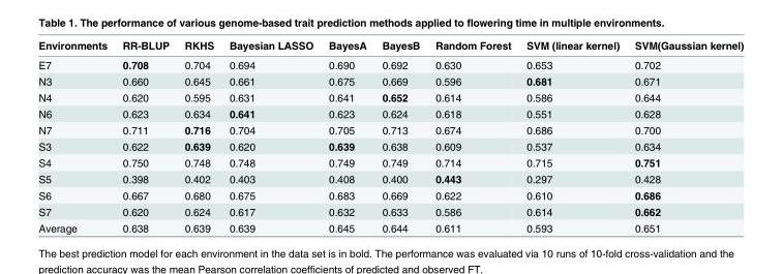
<table><thead><tr><td>Environments</td><td>RR-BLUP</td><td>RKHS</td><td>Bayesian LASSO</td><td>BayesA</td><td>BayesB</td><td>Random Forest</td><td>SVM (linear kernel)</td><td>SVM(Gaussian kernel)</td></tr></thead><tbody><tr><td>E7</td><td>0.708</td><td>0.704</td><td>0.694</td><td>0.690</td><td>0.692</td><td>0.630</td><td>0.653</td><td>0.702</td></tr><tr><td>N3</td><td>0.660</td><td>0.645</td><td>0.661</td><td>0.675</td><td>0.669</td><td>0.596</td><td>0.681</td><td>0.671</td></tr><tr><td>N4</td><td>0.620</td><td>0.595</td><td>0.631</td><td>0.641</td><td>0.652</td><td>0.614</td><td>0.586</td><td>0.644</td></tr><tr><td>N6</td><td>0.623</td><td>0.634</td><td>0.641</td><td>0.623</td><td>0.624</td><td>0.618</td><td>0.551</td><td>0.628</td></tr><tr><td>N7</td><td>0.711</td><td>0.716</td><td>0.704</td><td>0.705</td><td>0.713</td><td>0.674</td><td>0.686</td><td>0.700</td></tr><tr><td>S3</td><td>0.622</td><td>0.639</td><td>0.620</td><td>0.639</td><td>0.638</td><td>0.609</td><td>0.537</td><td>0.634</td></tr><tr><td>S4</td><td>0.750</td><td>0.748</td><td>0.748</td><td>0.749</td><td>0.749</td><td>0.714</td><td>0.715</td><td>0.751</td></tr><tr><td>S5</td><td>0.398</td><td>0.402</td><td>0.403</td><td>0.408</td><td>0.400</td><td>0.443</td><td>0.297</td><td>0.428</td></tr><tr><td>S6</td><td>0.667</td><td>0.680</td><td>0.675</td><td>0.683</td><td>0.669</td><td>0.622</td><td>0.610</td><td>0.686</td></tr><tr><td>S7</td><td>0.620</td><td>0.624</td><td>0.617</td><td>0.632</td><td>0.633</td><td>0.586</td><td>0.614</td><td>0.662</td></tr><tr><td>Average</td><td>0.638</td><td>0.639</td><td>0.639</td><td>0.645</td><td>0.644</td><td>0.611</td><td>0.593</td><td>0.651</td></tr></tbody></table>